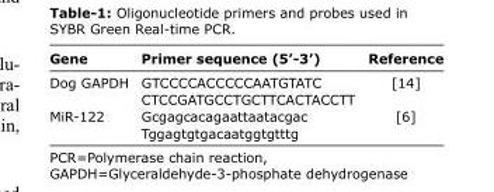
<table><thead><tr><td>Gene</td><td>Primer sequence (5’-3’)</td><td>Reference</td></tr></thead><tbody><tr><td rowspan="2">Dog GAPDH</td><td>GTCCCCACCCCCAATGTATC</td><td>[14]</td></tr><tr><td>CTCCGATGCCTGCTTCACTACCTT</td><td></td></tr><tr><td rowspan="2">MiR-122</td><td>Gcgagcacagaattaatacgac</td><td>[6]</td></tr><tr><td>Tggagtgtgacaatggtgtttg</td><td></td></tr></tbody></table>